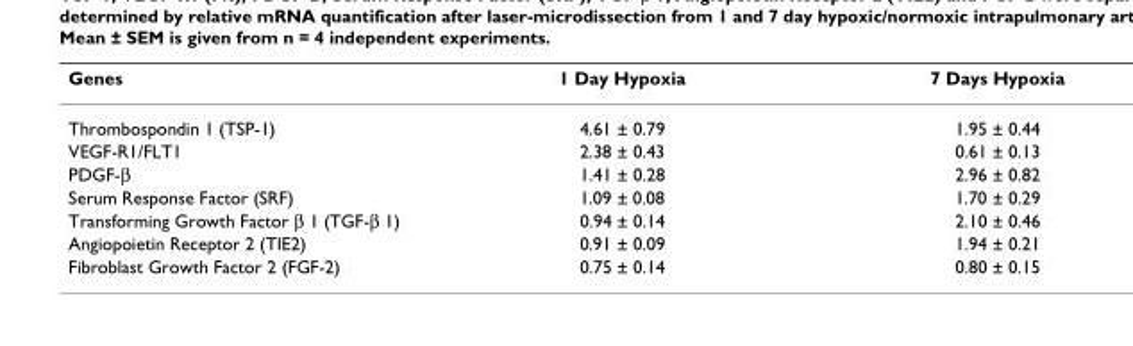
<table><thead><tr><td>Genes</td><td>1 Day Hypoxia</td><td>7 Days Hypoxia</td></tr></thead><tbody><tr><td>Thrombospondin 1 (TSP-1)</td><td>4.61 ± 0.79</td><td>1.95 ± 0.44</td></tr><tr><td>VEGF-R1/FLT1</td><td>2.38 ± 0.43</td><td>0.61 ± 0.13</td></tr><tr><td>PDGF-β</td><td>1.41 ± 0.28</td><td>2.96 ± 0.82</td></tr><tr><td>Serum Response Factor (SRF)</td><td>1.09 ± 0.08</td><td>1.70 ± 0.29</td></tr><tr><td>Transforming Growth Factor β 1 (TGF-β 1)</td><td>0.94 ± 0.14</td><td>2.10 ± 0.46</td></tr><tr><td>Angiopoietin Receptor 2 (TIE2)</td><td>0.91 ± 0.09</td><td>1.94 ± 0.21</td></tr><tr><td>Fibroblast Growth Factor 2 (FGF-2)</td><td>0.75 ± 0.14</td><td>0.80 ± 0.15</td></tr></tbody></table>